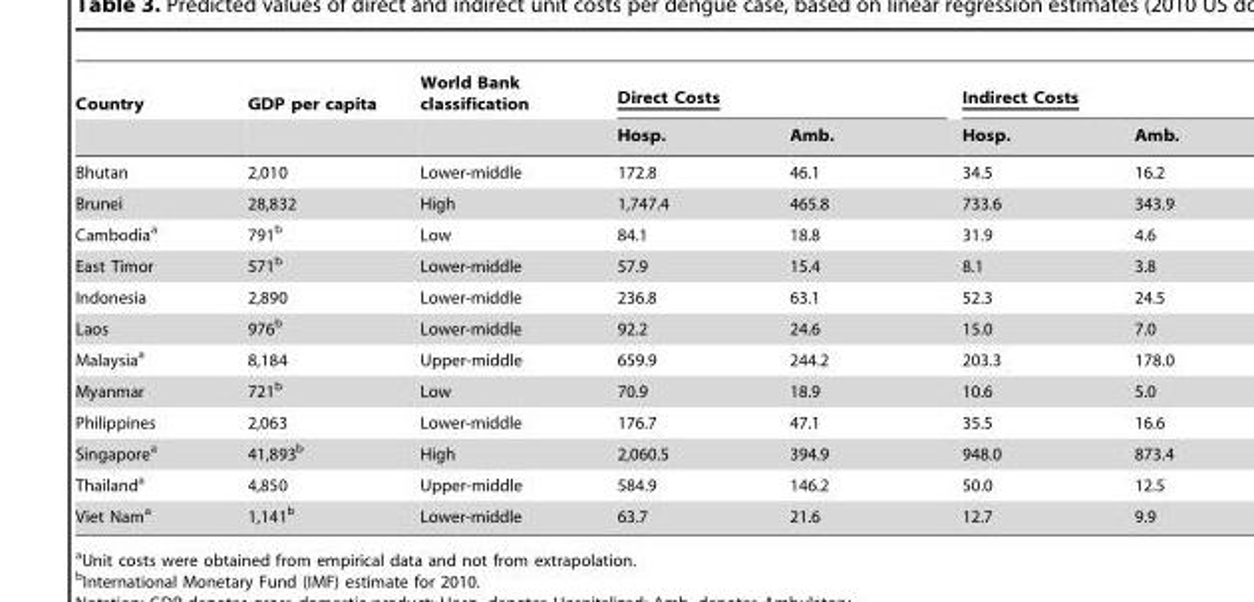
<table><thead><tr><td rowspan="2">Country</td><td rowspan="2">GDP per capita</td><td rowspan="2">World Bank classification</td><td colspan="2">Direct Costs</td><td colspan="2">Indirect Costs</td></tr><tr><td>Hosp.</td><td>Amb.</td><td>Hosp.</td><td>Amb.</td></tr></thead><tbody><tr><td>Bhutan</td><td>2,010</td><td>Lower-middle</td><td>172.8</td><td>46.1</td><td>34.5</td><td>16.2</td></tr><tr><td>Brunei</td><td>28,832</td><td>High</td><td>1,747.4</td><td>465.8</td><td>733.6</td><td>343.9</td></tr><tr><td>Cambodia<sup>a</sup></td><td>791<sup>b</sup></td><td>Low</td><td>84.1</td><td>18.8</td><td>31.9</td><td>4.6</td></tr><tr><td>East Timor</td><td>571<sup>b</sup></td><td>Lower-middle</td><td>57.9</td><td>15.4</td><td>8.1</td><td>3.8</td></tr><tr><td>Indonesia</td><td>2,890</td><td>Lower-middle</td><td>236.8</td><td>63.1</td><td>52.3</td><td>24.5</td></tr><tr><td>Laos</td><td>976<sup>b</sup></td><td>Lower-middle</td><td>92.2</td><td>24.6</td><td>15.0</td><td>7.0</td></tr><tr><td>Malaysia<sup>a</sup></td><td>8,184</td><td>Upper-middle</td><td>659.9</td><td>244.2</td><td>203.3</td><td>178.0</td></tr><tr><td>Myanmar</td><td>721<sup>b</sup></td><td>Low</td><td>70.9</td><td>18.9</td><td>10.6</td><td>5.0</td></tr><tr><td>Philippines</td><td>2,063</td><td>Lower-middle</td><td>176.7</td><td>47.1</td><td>35.5</td><td>16.6</td></tr><tr><td>Singapore<sup>a</sup></td><td>41,893<sup>b</sup></td><td>High</td><td>2,060.5</td><td>394.9</td><td>948.0</td><td>873.4</td></tr><tr><td>Thailand<sup>a</sup></td><td>4,850</td><td>Upper-middle</td><td>584.9</td><td>146.2</td><td>50.0</td><td>12.5</td></tr><tr><td>Viet Nam<sup>a</sup></td><td>1,141<sup>b</sup></td><td>Lower-middle</td><td>63.7</td><td>21.6</td><td>12.7</td><td>9.9</td></tr></tbody></table>